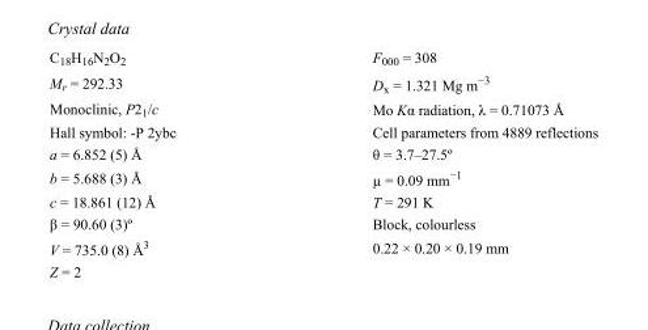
<table><tbody><tr><td>C<sub>18</sub>H<sub>16</sub>N<sub>2</sub>O<sub>2</sub></td><td>F000 = 308</td></tr><tr><td>M<sub>r</sub> = 292.33</td><td>D<sub>x</sub> = 1.321 Mg m<sup>−3</sup></td></tr><tr><td>Monoclinic, P2<sub>1</sub>/c</td><td>Mo Kα radiation, λ = 0.71073 Å</td></tr><tr><td>Hall symbol: -P 2ybc</td><td>Cell parameters from 4889 reflections</td></tr><tr><td>a = 6.852 (5) Å</td><td>θ = 3.7–27.5º</td></tr><tr><td>b = 5.688 (3) Å</td><td>µ = 0.09 mm<sup>−1</sup></td></tr><tr><td>c = 18.861 (12) Å</td><td>T = 291 K</td></tr><tr><td>β = 90.60 (3)º</td><td>Block, colourless</td></tr><tr><td>V = 735.0 (8) Å<sup>3</sup></td><td>0.22 × 0.20 × 0.19 mm</td></tr><tr><td>Z = 2</td><td></td></tr></tbody></table>